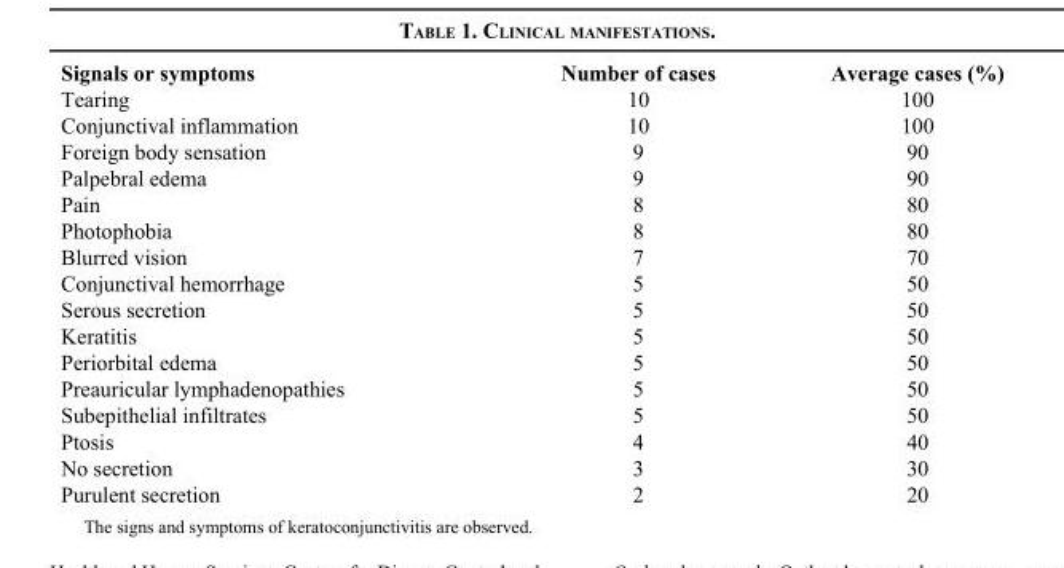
<table><thead><tr><td>Signals or symptoms</td><td>Number of cases</td><td>Average cases (%)</td></tr></thead><tbody><tr><td>Tearing</td><td>10</td><td>100</td></tr><tr><td>Conjunctival inflammation</td><td>10</td><td>100</td></tr><tr><td>Foreign body sensation</td><td>9</td><td>90</td></tr><tr><td>Palpebral edema</td><td>9</td><td>90</td></tr><tr><td>Pain</td><td>8</td><td>80</td></tr><tr><td>Photophobia</td><td>8</td><td>80</td></tr><tr><td>Blurred vision</td><td>7</td><td>70</td></tr><tr><td>Conjunctival hemorrhage</td><td>5</td><td>50</td></tr><tr><td>Serous secretion</td><td>5</td><td>50</td></tr><tr><td>Keratitis</td><td>5</td><td>50</td></tr><tr><td>Periorbital edema</td><td>5</td><td>50</td></tr><tr><td>Preauricular lymphadenopathies</td><td>5</td><td>50</td></tr><tr><td>Subepithelial infiltrates</td><td>5</td><td>50</td></tr><tr><td>Ptosis</td><td>4</td><td>40</td></tr><tr><td>No secretion</td><td>3</td><td>30</td></tr><tr><td>Purulent secretion</td><td>2</td><td>20</td></tr></tbody></table>